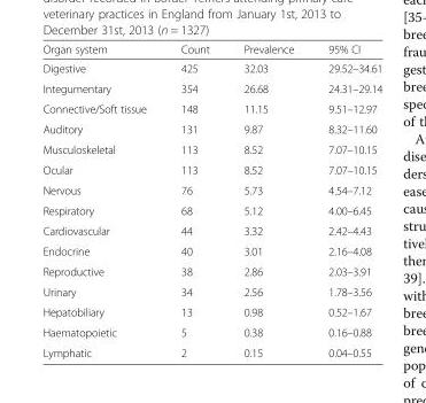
<table><thead><tr><td>Organ system</td><td>Count</td><td>Prevalence</td><td>95% CI</td></tr></thead><tbody><tr><td>Digestive</td><td>425</td><td>32.03</td><td>29.52–34.61</td></tr><tr><td>Integumentary</td><td>354</td><td>26.68</td><td>24.31–29.14</td></tr><tr><td>Connective/Soft tissue</td><td>148</td><td>11.15</td><td>9.51–12.97</td></tr><tr><td>Auditory</td><td>131</td><td>9.87</td><td>8.32–11.60</td></tr><tr><td>Musculoskeletal</td><td>113</td><td>8.52</td><td>7.07–10.15</td></tr><tr><td>Ocular</td><td>113</td><td>8.52</td><td>7.07–10.15</td></tr><tr><td>Nervous</td><td>76</td><td>5.73</td><td>4.54–7.12</td></tr><tr><td>Respiratory</td><td>68</td><td>5.12</td><td>4.00–6.45</td></tr><tr><td>Cardiovascular</td><td>44</td><td>3.32</td><td>2.42–4.43</td></tr><tr><td>Endocrine</td><td>40</td><td>3.01</td><td>2.16–4.08</td></tr><tr><td>Reproductive</td><td>38</td><td>2.86</td><td>2.03–3.91</td></tr><tr><td>Urinary</td><td>34</td><td>2.56</td><td>1.78–3.56</td></tr><tr><td>Hepatobiliary</td><td>13</td><td>0.98</td><td>0.52–1.67</td></tr><tr><td>Haematopoietic</td><td>5</td><td>0.38</td><td>0.16–0.88</td></tr><tr><td>Lymphatic</td><td>2</td><td>0.15</td><td>0.04–0.55</td></tr></tbody></table>